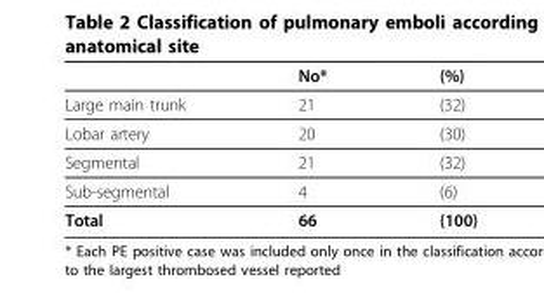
<table><thead><tr><td></td><td>No*</td><td>(%)</td></tr></thead><tbody><tr><td>Large main trunk</td><td>21</td><td>(32)</td></tr><tr><td>Lobar artery</td><td>20</td><td>(30)</td></tr><tr><td>Segmental</td><td>21</td><td>(32)</td></tr><tr><td>Sub-segmental</td><td>4</td><td>(6)</td></tr><tr><td>Total</td><td>66</td><td>(100)</td></tr></tbody></table>